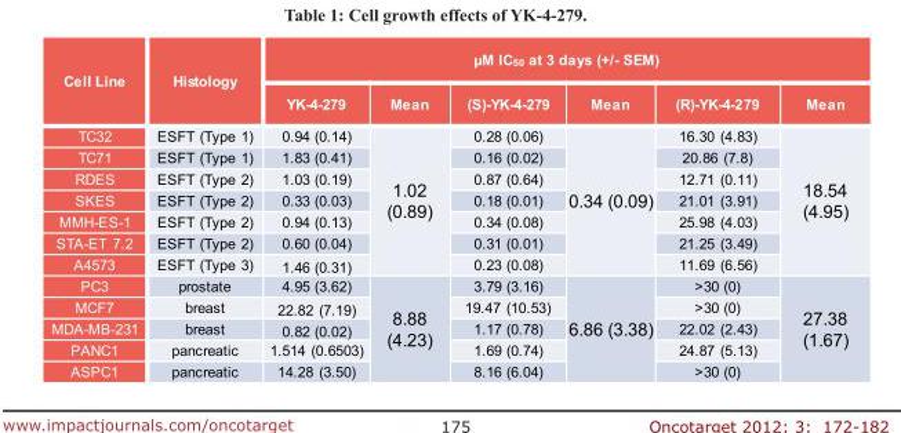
<table><thead><tr><td rowspan="2">Cell Line</td><td rowspan="2">Histology</td><td colspan="6">µM IC<sub>50</sub> at 3 days (+/- SEM)</td></tr><tr><td>YK-4-279</td><td>Mean</td><td>(S)-YK-4-279</td><td>Mean</td><td>(R)-YK-4-279</td><td>Mean</td></tr></thead><tbody><tr><td>TC32</td><td>ESFT (Type 1)</td><td>0.94 (0.14)</td><td rowspan="7">1.02 (0.89)</td><td>0.28 (0.06)</td><td rowspan="7">0.34 (0.09)</td><td>16.30 (4.83)</td><td rowspan="7">18.54 (4.95)</td></tr><tr><td>TC71</td><td>ESFT (Type 1)</td><td>1.83 (0.41)</td><td>0.16 (0.02)</td><td>20.86 (7.8)</td></tr><tr><td>RDES</td><td>ESFT (Type 2)</td><td>1.03 (0.19)</td><td>0.87 (0.64)</td><td>12.71 (0.11)</td></tr><tr><td>SKES</td><td>ESFT (Type 2)</td><td>0.33 (0.03)</td><td>0.18 (0.01)</td><td>21.01 (3.91)</td></tr><tr><td>MMH-ES-1</td><td>ESFT (Type 2)</td><td>0.94 (0.13)</td><td>0.34 (0.08)</td><td>25.98 (4.03)</td></tr><tr><td>STA-ET 7.2</td><td>ESFT (Type 2)</td><td>0.60 (0.04)</td><td>0.31 (0.01)</td><td>21.25 (3.49)</td></tr><tr><td>A4573</td><td>ESFT (Type 3)</td><td>1.46 (0.31)</td><td>0.23 (0.08)</td><td>11.69 (6.56)</td></tr><tr><td>PC3</td><td>prostate</td><td>4.95 (3.62)</td><td rowspan="5">8.88 (4.23)</td><td>3.79 (3.16)</td><td rowspan="5">6.86 (3.38)</td><td>&gt;30 (0)</td><td rowspan="5">27.38 (1.67)</td></tr><tr><td>MCF7</td><td>breast</td><td>22.82 (7.19)</td><td>19.47 (10.53)</td><td>&gt;30 (0)</td></tr><tr><td>MDA-MB-231</td><td>breast</td><td>0.82 (0.02)</td><td>1.17 (0.78)</td><td>22.02 (2.43)</td></tr><tr><td>PANC1</td><td>pancreatic</td><td>1.514 (0.6503)</td><td>1.69 (0.74)</td><td>24.87 (5.13)</td></tr><tr><td>ASPC1</td><td>pancreatic</td><td>14.28 (3.50)</td><td>8.16 (6.04)</td><td>&gt;30 (0)</td></tr></tbody></table>